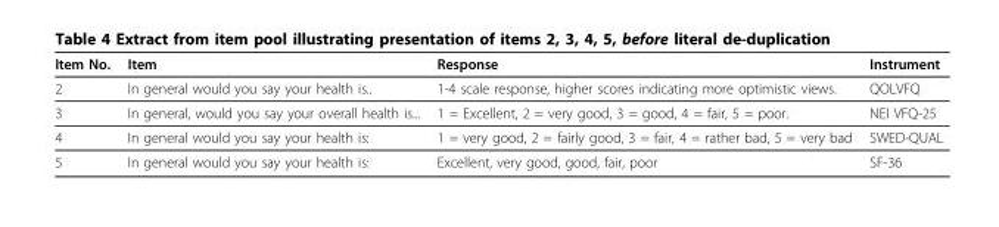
<table><thead><tr><td>Item No.</td><td>Item</td><td>Response</td><td>Instrument</td></tr></thead><tbody><tr><td>2</td><td>In general would you say your health is..</td><td>1-4 scale response, higher scores indicating more optimistic views.</td><td>QOLVFQ</td></tr><tr><td>3</td><td>In general, would you say your overall health is...</td><td>1 = Excellent, 2 = very good, 3 = good, 4 = fair, 5 = poor.</td><td>NEI VFQ-25</td></tr><tr><td>4</td><td>In general would you say your health is:</td><td>1 = very good, 2 = fairly good, 3 = fair, 4 = rather bad, 5 = very bad</td><td>SWED-QUAL</td></tr><tr><td>5</td><td>In general would you say your health is:</td><td>Excellent, very good, good, fair, poor</td><td>SF-36</td></tr></tbody></table>